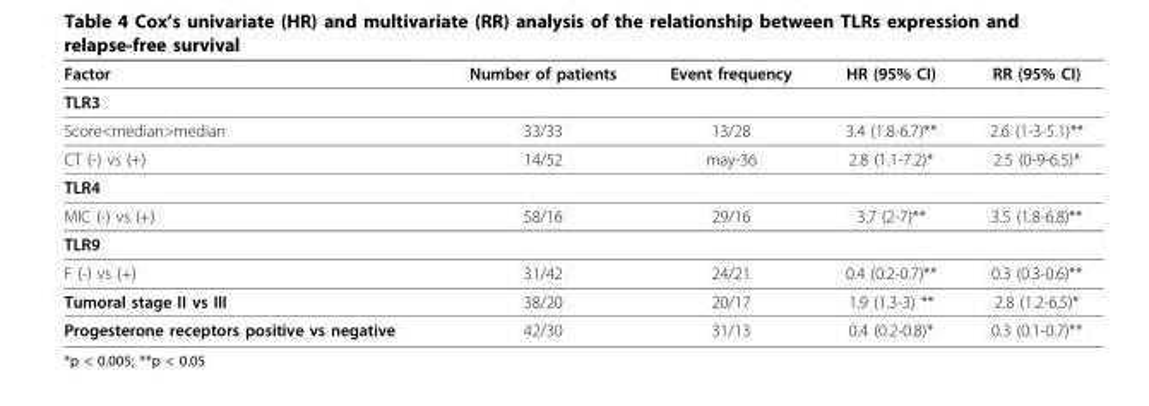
<table><thead><tr><td>Factor</td><td>Number of patients</td><td>Event frequency</td><td>HR (95% CI)</td><td>RR (95% CI)</td></tr></thead><tbody><tr><td colspan="5">TLR3</td></tr><tr><td>Score&lt;median&gt;median</td><td>33/33</td><td>13/28</td><td>3.4 (1.8-6.7)**</td><td>2.6 (1-3-5.1)**</td></tr><tr><td>CT (-) vs (+)</td><td>14/52</td><td>may-36</td><td>2.8 (1.1-7.2)*</td><td>2.5 (0-9-6.5)*</td></tr><tr><td colspan="5">TLR4</td></tr><tr><td>MIC (-) vs (+)</td><td>58/16</td><td>29/16</td><td>3.7 (2-7)**</td><td>3.5 (1.8-6.8)**</td></tr><tr><td colspan="5">TLR9</td></tr><tr><td>F (-) vs (+)</td><td>31/42</td><td>24/21</td><td>0.4 (0.2-0.7)**</td><td>0.3 (0.3-0.6)**</td></tr><tr><td>Tumoral stage II vs III</td><td>38/20</td><td>20/17</td><td>1.9 (1.3-3) **</td><td>2.8 (1.2-6.5)*</td></tr><tr><td>Progesterone receptors positive vs negative</td><td>42/30</td><td>31/13</td><td>0.4 (0.2-0.8)*</td><td>0.3 (0.1-0.7)**</td></tr></tbody></table>